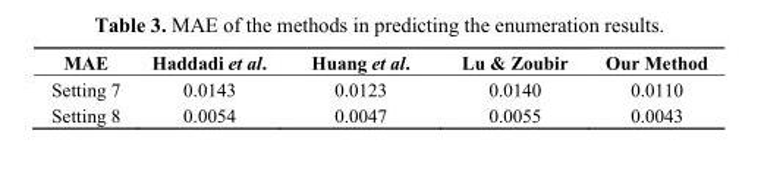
<table><thead><tr><td>MAE</td><td>Haddadi et al.</td><td>Huang et al.</td><td>Lu &amp; Zoubir</td><td>Our Method</td></tr></thead><tbody><tr><td>Setting 7</td><td>0.0143</td><td>0.0123</td><td>0.0140</td><td>0.0110</td></tr><tr><td>Setting 8</td><td>0.0054</td><td>0.0047</td><td>0.0055</td><td>0.0043</td></tr></tbody></table>